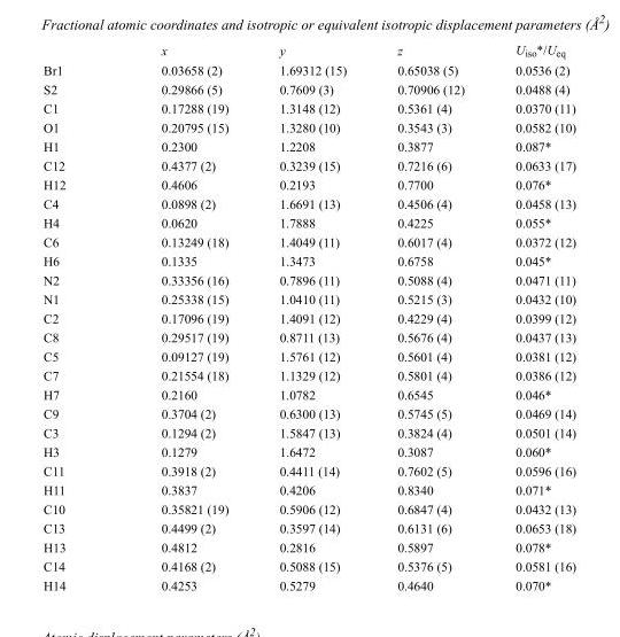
<table><thead><tr><td></td><td>x</td><td>y</td><td>z</td><td>U<sub>iso</sub>*/U<sub>eq</sub></td></tr></thead><tbody><tr><td>Br1</td><td>0.03658 (2)</td><td>1.69312 (15)</td><td>0.65038 (5)</td><td>0.0536 (2)</td></tr><tr><td>S2</td><td>0.29866 (5)</td><td>0.7609 (3)</td><td>0.70906 (12)</td><td>0.0488 (4)</td></tr><tr><td>C1</td><td>0.17288 (19)</td><td>1.3148 (12)</td><td>0.5361 (4)</td><td>0.0370 (11)</td></tr><tr><td>O1</td><td>0.20795 (15)</td><td>1.3280 (10)</td><td>0.3543 (3)</td><td>0.0582 (10)</td></tr><tr><td>H1</td><td>0.2300</td><td>1.2208</td><td>0.3877</td><td>0.087*</td></tr><tr><td>C12</td><td>0.4377 (2)</td><td>0.3239 (15)</td><td>0.7216 (6)</td><td>0.0633 (17)</td></tr><tr><td>H12</td><td>0.4606</td><td>0.2193</td><td>0.7700</td><td>0.076*</td></tr><tr><td>C4</td><td>0.0898 (2)</td><td>1.6691 (13)</td><td>0.4506 (4)</td><td>0.0458 (13)</td></tr><tr><td>H4</td><td>0.0620</td><td>1.7888</td><td>0.4225</td><td>0.055*</td></tr><tr><td>C6</td><td>0.13249 (18)</td><td>1.4049 (11)</td><td>0.6017 (4)</td><td>0.0372 (12)</td></tr><tr><td>H6</td><td>0.1335</td><td>1.3473</td><td>0.6758</td><td>0.045*</td></tr><tr><td>N2</td><td>0.33356 (16)</td><td>0.7896 (11)</td><td>0.5088 (4)</td><td>0.0471 (11)</td></tr><tr><td>N1</td><td>0.25338 (15)</td><td>1.0410 (11)</td><td>0.5215 (3)</td><td>0.0432 (10)</td></tr><tr><td>C2</td><td>0.17096 (19)</td><td>1.4091 (12)</td><td>0.4229 (4)</td><td>0.0399 (12)</td></tr><tr><td>C8</td><td>0.29517 (19)</td><td>0.8711 (13)</td><td>0.5676 (4)</td><td>0.0437 (13)</td></tr><tr><td>C5</td><td>0.09127 (19)</td><td>1.5761 (12)</td><td>0.5601 (4)</td><td>0.0381 (12)</td></tr><tr><td>C7</td><td>0.21554 (18)</td><td>1.1329 (12)</td><td>0.5801 (4)</td><td>0.0386 (12)</td></tr><tr><td>H7</td><td>0.2160</td><td>1.0782</td><td>0.6545</td><td>0.046*</td></tr><tr><td>C9</td><td>0.3704 (2)</td><td>0.6300 (13)</td><td>0.5745 (5)</td><td>0.0469 (14)</td></tr><tr><td>C3</td><td>0.1294 (2)</td><td>1.5847 (13)</td><td>0.3824 (4)</td><td>0.0501 (14)</td></tr><tr><td>H3</td><td>0.1279</td><td>1.6472</td><td>0.3087</td><td>0.060*</td></tr><tr><td>C11</td><td>0.3918 (2)</td><td>0.4411 (14)</td><td>0.7602 (5)</td><td>0.0596 (16)</td></tr><tr><td>H11</td><td>0.3837</td><td>0.4206</td><td>0.8340</td><td>0.071*</td></tr><tr><td>C10</td><td>0.35821 (19)</td><td>0.5906 (12)</td><td>0.6847 (4)</td><td>0.0432 (13)</td></tr><tr><td>C13</td><td>0.4499 (2)</td><td>0.3597 (14)</td><td>0.6131 (6)</td><td>0.0653 (18)</td></tr><tr><td>H13</td><td>0.4812</td><td>0.2816</td><td>0.5897</td><td>0.078*</td></tr><tr><td>C14</td><td>0.4168 (2)</td><td>0.5088 (15)</td><td>0.5376 (5)</td><td>0.0581 (16)</td></tr><tr><td>H14</td><td>0.4253</td><td>0.5279</td><td>0.4640</td><td>0.070*</td></tr></tbody></table>